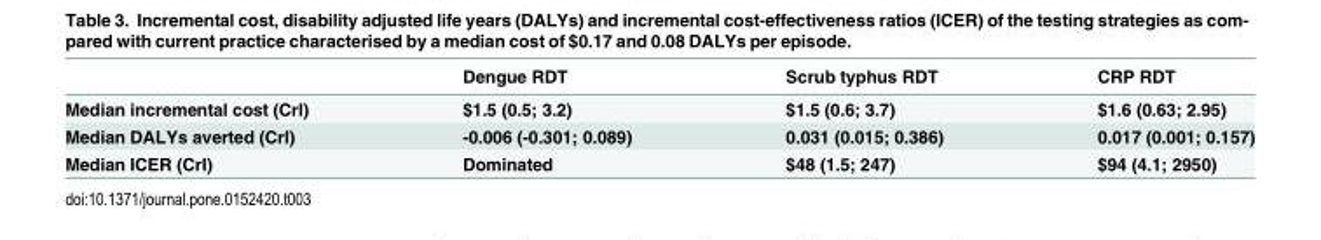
<table><thead><tr><td></td><td>Dengue RDT</td><td>Scrub typhus RDT</td><td>CRP RDT</td></tr></thead><tbody><tr><td>Median incremental cost (CrI)</td><td>$1.5 (0.5; 3.2)</td><td>$1.5 (0.6; 3.7)</td><td>$1.6 (0.63; 2.95)</td></tr><tr><td>Median DALYs averted (CrI)</td><td>-0.006 (-0.301; 0.089)</td><td>0.031 (0.015; 0.386)</td><td>0.017 (0.001; 0.157)</td></tr><tr><td>Median ICER (CrI)</td><td>Dominated</td><td>$48 (1.5; 247)</td><td>$94 (4.1; 2950)</td></tr></tbody></table>